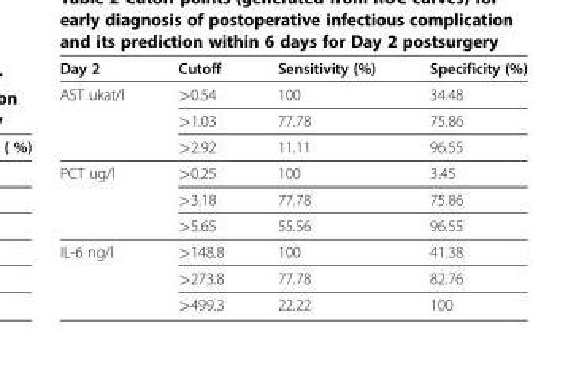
<table><thead><tr><td>Day 2</td><td>Cutoff</td><td>Sensitivity (%)</td><td>Specificity (%)</td></tr></thead><tbody><tr><td rowspan="3">AST ukat/l</td><td>&gt;0.54</td><td>100</td><td>34.48</td></tr><tr><td>&gt;1.03</td><td>77.78</td><td>75.86</td></tr><tr><td>&gt;2.92</td><td>11.11</td><td>96.55</td></tr><tr><td rowspan="3">PCT ug/l</td><td>&gt;0.25</td><td>100</td><td>3.45</td></tr><tr><td>&gt;3.18</td><td>77.78</td><td>75.86</td></tr><tr><td>&gt;5.65</td><td>55.56</td><td>96.55</td></tr><tr><td rowspan="3">IL-6 ng/l</td><td>&gt;148.8</td><td>100</td><td>41.38</td></tr><tr><td>&gt;273.8</td><td>77.78</td><td>82.76</td></tr><tr><td>&gt;499.3</td><td>22.22</td><td>100</td></tr></tbody></table>